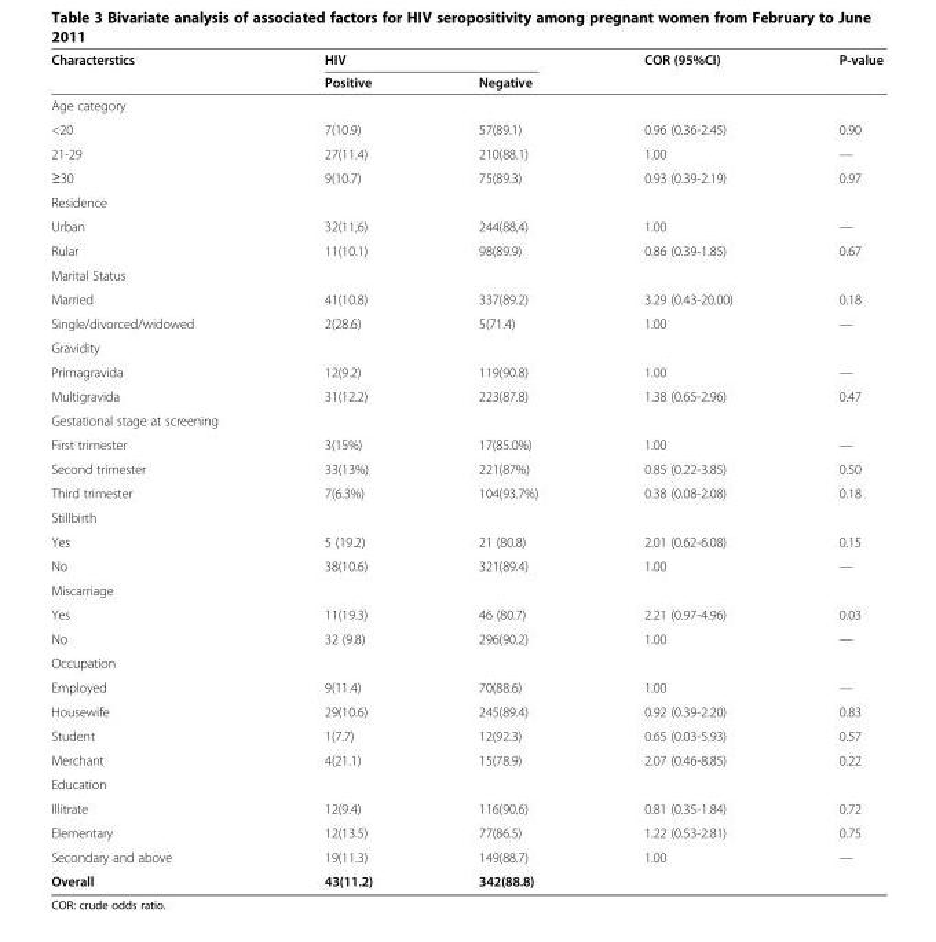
<table><thead><tr><td rowspan="2">Characterstics</td><td colspan="2">HIV</td><td rowspan="2">COR (95%CI)</td><td rowspan="2">P-value</td></tr><tr><td>Positive</td><td>Negative</td></tr></thead><tbody><tr><td colspan="5">Age category</td></tr><tr><td>&lt;20</td><td>7(10.9)</td><td>57(89.1)</td><td>0.96 (0.36-2.45)</td><td>0.90</td></tr><tr><td>21-29</td><td>27(11.4)</td><td>210(88.1)</td><td>1.00</td><td>—</td></tr><tr><td>≥30</td><td>9(10.7)</td><td>75(89.3)</td><td>0.93 (0.39-2.19)</td><td>0.97</td></tr><tr><td colspan="5">Residence</td></tr><tr><td>Urban</td><td>32(11,6)</td><td>244(88,4)</td><td>1.00</td><td>—</td></tr><tr><td>Rular</td><td>11(10.1)</td><td>98(89.9)</td><td>0.86 (0.39-1.85)</td><td>0.67</td></tr><tr><td colspan="5">Marital Status</td></tr><tr><td>Married</td><td>41(10.8)</td><td>337(89.2)</td><td>3.29 (0.43-20.00)</td><td>0.18</td></tr><tr><td>Single/divorced/widowed</td><td>2(28.6)</td><td>5(71.4)</td><td>1.00</td><td>—</td></tr><tr><td colspan="5">Gravidity</td></tr><tr><td>Primagravida</td><td>12(9.2)</td><td>119(90.8)</td><td>1.00</td><td>—</td></tr><tr><td>Multigravida</td><td>31(12.2)</td><td>223(87.8)</td><td>1.38 (0.65-2.96)</td><td>0.47</td></tr><tr><td colspan="5">Gestational stage at screening</td></tr><tr><td>First trimester</td><td>3(15%)</td><td>17(85.0%)</td><td>1.00</td><td>—</td></tr><tr><td>Second trimester</td><td>33(13%)</td><td>221(87%)</td><td>0.85 (0.22-3.85)</td><td>0.50</td></tr><tr><td>Third trimester</td><td>7(6.3%)</td><td>104(93.7%)</td><td>0.38 (0.08-2.08)</td><td>0.18</td></tr><tr><td colspan="5">Stillbirth</td></tr><tr><td>Yes</td><td>5 (19.2)</td><td>21 (80.8)</td><td>2.01 (0.62-6.08)</td><td>0.15</td></tr><tr><td>No</td><td>38(10.6)</td><td>321(89.4)</td><td>1.00</td><td>—</td></tr><tr><td colspan="5">Miscarriage</td></tr><tr><td>Yes</td><td>11(19.3)</td><td>46 (80.7)</td><td>2.21 (0.97-4.96)</td><td>0.03</td></tr><tr><td>No</td><td>32 (9.8)</td><td>296(90.2)</td><td>1.00</td><td>—</td></tr><tr><td colspan="5">Occupation</td></tr><tr><td>Employed</td><td>9(11.4)</td><td>70(88.6)</td><td>1.00</td><td>—</td></tr><tr><td>Housewife</td><td>29(10.6)</td><td>245(89.4)</td><td>0.92 (0.39-2.20)</td><td>0.83</td></tr><tr><td>Student</td><td>1(7.7)</td><td>12(92.3)</td><td>0.65 (0.03-5.93)</td><td>0.57</td></tr><tr><td>Merchant</td><td>4(21.1)</td><td>15(78.9)</td><td>2.07 (0.46-8.85)</td><td>0.22</td></tr><tr><td colspan="5">Education</td></tr><tr><td>Illitrate</td><td>12(9.4)</td><td>116(90.6)</td><td>0.81 (0.35-1.84)</td><td>0.72</td></tr><tr><td>Elementary</td><td>12(13.5)</td><td>77(86.5)</td><td>1.22 (0.53-2.81)</td><td>0.75</td></tr><tr><td>Secondary and above</td><td>19(11.3)</td><td>149(88.7)</td><td>1.00</td><td>—</td></tr><tr><td>Overall</td><td>43(11.2)</td><td>342(88.8)</td><td></td><td></td></tr></tbody></table>